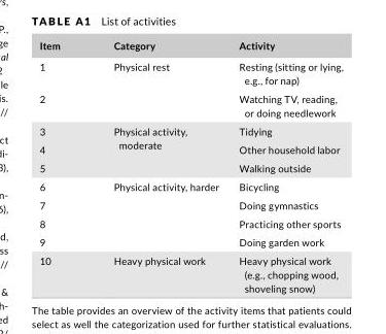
<table><thead><tr><td>Item</td><td>Category</td><td>Activity</td></tr></thead><tbody><tr><td>1</td><td rowspan="2">Physical rest</td><td>Resting (sitting or lying, e.g., for nap)</td></tr><tr><td>2</td><td>Watching TV, reading, or doing needlework</td></tr><tr><td>3</td><td rowspan="3">Physical activity, moderate</td><td>Tidying</td></tr><tr><td>4</td><td>Other household labor</td></tr><tr><td>5</td><td>Walking outside</td></tr><tr><td>6</td><td rowspan="4">Physical activity, harder</td><td>Bicycling</td></tr><tr><td>7</td><td>Doing gymnastics</td></tr><tr><td>8</td><td>Practicing other sports</td></tr><tr><td>9</td><td>Doing garden work</td></tr><tr><td>10</td><td>Heavy physical work</td><td>Heavy physical work (e.g., chopping wood, shoveling snow)</td></tr></tbody></table>